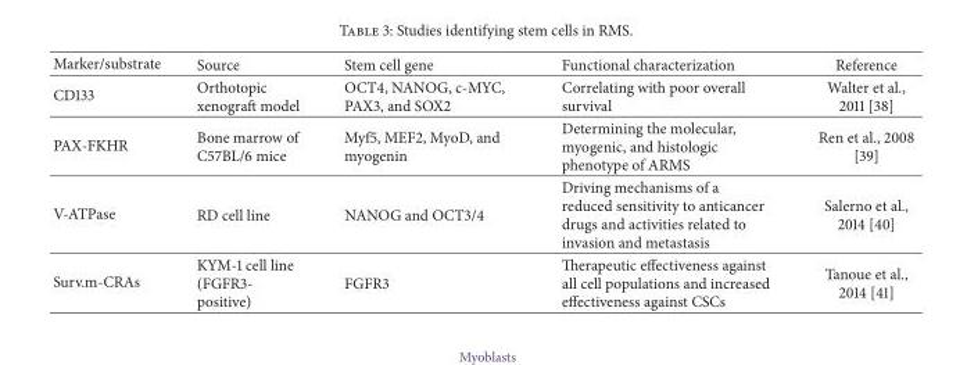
<table><thead><tr><td>Marker/substrate</td><td>Source</td><td>Stem cell gene</td><td>Functional characterization</td><td>Reference</td></tr></thead><tbody><tr><td>CD133</td><td>Orthotopic xenograft model</td><td>OCT4, NANOG, c-MYC, PAX3, and SOX2</td><td>Correlating with poor overall survival</td><td>Walter et al., 2011 [38]</td></tr><tr><td>PAX-FKHR</td><td>Bone marrow of C57BL/6 mice</td><td>Myf5, MEF2, MyoD, and myogenin</td><td>Determining the molecular, myogenic, and histologic phenotype of ARMS</td><td>Ren et al., 2008 [39]</td></tr><tr><td>V-ATPase</td><td>RD cell line</td><td>NANOG and OCT3/4</td><td>Driving mechanisms of a reduced sensitivity to anticancer drugs and activities related to invasion and metastasis</td><td>Salerno et al., 2014 [40]</td></tr><tr><td>Surv.m-CRAs</td><td>KYM-1 cell line (FGFR3- positive)</td><td>FGFR3</td><td>Therapeutic effectiveness against all cell populations and increased effectiveness against CSCs</td><td>Tanoue et al., 2014 [41]</td></tr></tbody></table>